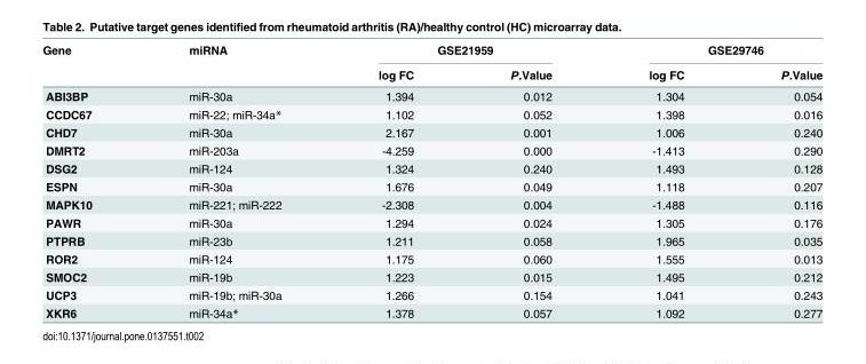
<table><thead><tr><td rowspan="2">Gene</td><td rowspan="2">miRNA</td><td colspan="2">GSE21959</td><td colspan="2">GSE29746</td></tr><tr><td>log FC</td><td>P.Value</td><td>log FC</td><td>P.Value</td></tr></thead><tbody><tr><td>ABI3BP</td><td>miR-30a</td><td>1.394</td><td>0.012</td><td>1.304</td><td>0.054</td></tr><tr><td>CCDC67</td><td>miR-22; miR-34a*</td><td>1.102</td><td>0.052</td><td>1.398</td><td>0.016</td></tr><tr><td>CHD7</td><td>miR-30a</td><td>2.167</td><td>0.001</td><td>1.006</td><td>0.240</td></tr><tr><td>DMRT2</td><td>miR-203a</td><td>-4.259</td><td>0.000</td><td>-1.413</td><td>0.290</td></tr><tr><td>DSG2</td><td>miR-124</td><td>1.324</td><td>0.240</td><td>1.493</td><td>0.128</td></tr><tr><td>ESPN</td><td>miR-30a</td><td>1.676</td><td>0.049</td><td>1.118</td><td>0.207</td></tr><tr><td>MAPK10</td><td>miR-221; miR-222</td><td>-2.308</td><td>0.004</td><td>-1.488</td><td>0.116</td></tr><tr><td>PAWR</td><td>miR-30a</td><td>1.294</td><td>0.024</td><td>1.305</td><td>0.176</td></tr><tr><td>PTPRB</td><td>miR-23b</td><td>1.211</td><td>0.058</td><td>1.965</td><td>0.035</td></tr><tr><td>ROR2</td><td>miR-124</td><td>1.175</td><td>0.060</td><td>1.555</td><td>0.013</td></tr><tr><td>SMOC2</td><td>miR-19b</td><td>1.223</td><td>0.015</td><td>1.495</td><td>0.212</td></tr><tr><td>UCP3</td><td>miR-19b; miR-30a</td><td>1.266</td><td>0.154</td><td>1.041</td><td>0.243</td></tr><tr><td>XKR6</td><td>miR-34a*</td><td>1.378</td><td>0.057</td><td>1.092</td><td>0.277</td></tr></tbody></table>